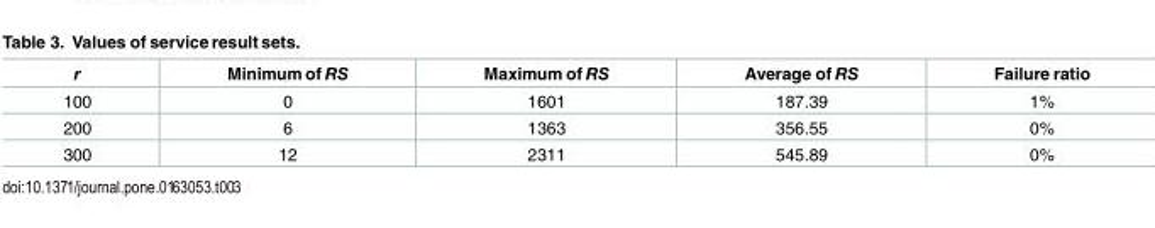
<table><thead><tr><td>r</td><td>Minimum of RS</td><td>Maximum of RS</td><td>Average of RS</td><td>Failure ratio</td></tr></thead><tbody><tr><td>100</td><td>0</td><td>1601</td><td>187.39</td><td>1%</td></tr><tr><td>200</td><td>6</td><td>1363</td><td>356.55</td><td>0%</td></tr><tr><td>300</td><td>12</td><td>2311</td><td>545.89</td><td>0%</td></tr></tbody></table>